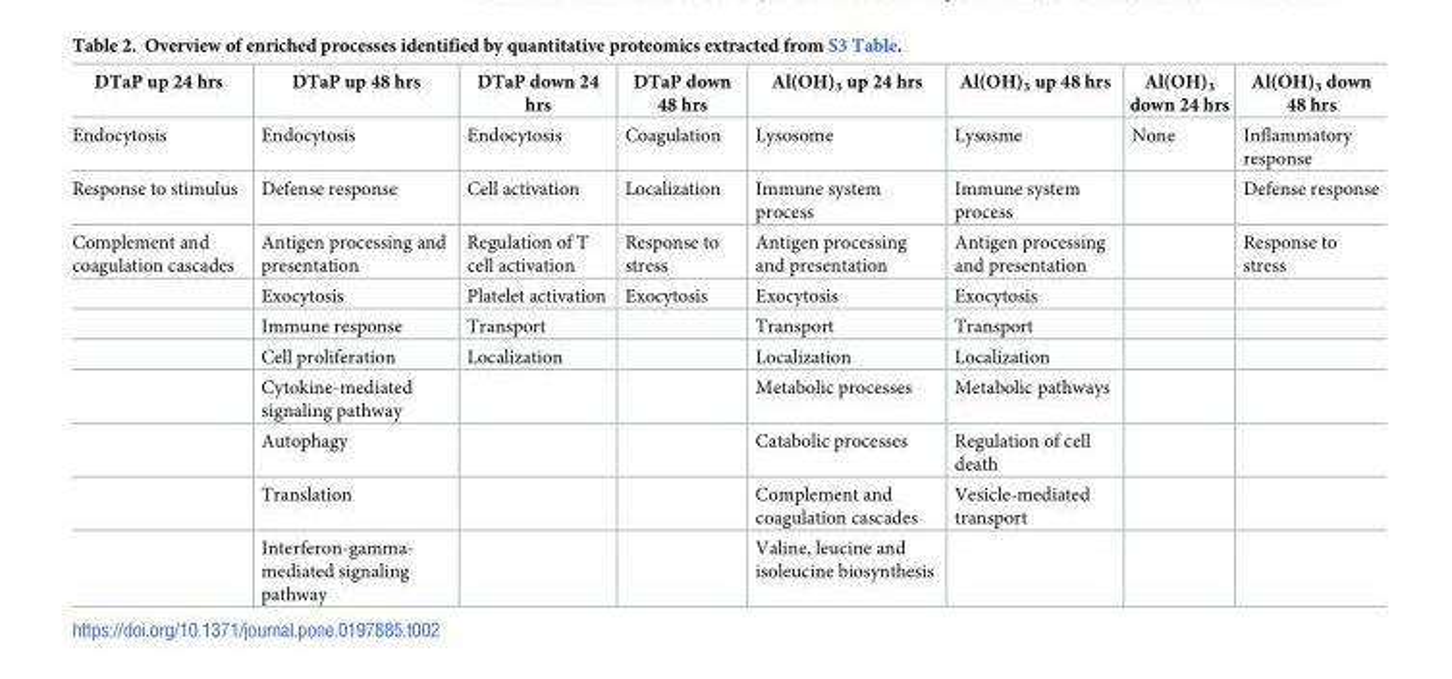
<table><thead><tr><td>DTaP up 24 hrs</td><td>DTaP up 48 hrs</td><td>DTaP down 24 hrs</td><td>DTaP down 48 hrs</td><td>Al(OH)<sub>3</sub> up 24 hrs</td><td>Al(OH)<sub>3</sub> up 48 hrs</td><td>Al(OH)<sub>3</sub> down 24 hrs</td><td>Al(OH)<sub>3</sub> down 48 hrs</td></tr></thead><tbody><tr><td>Endocytosis</td><td>Endocytosis</td><td>Endocytosis</td><td>Coagulation</td><td>Lysosome</td><td>Lysosme</td><td>None</td><td>Inflammatory response</td></tr><tr><td>Response to stimulus</td><td>Defense response</td><td>Cell activation</td><td>Localization</td><td>Immune system process</td><td>Immune system process</td><td></td><td>Defense response</td></tr><tr><td rowspan="8">Complement and coagulation cascades</td><td>Antigen processing and presentation</td><td>Regulation of T cell activation</td><td>Response to stress</td><td>Antigen processing and presentation</td><td>Antigen processing and presentation</td><td></td><td>Response to stress</td></tr><tr><td>Exocytosis</td><td>Platelet activation</td><td>Exocytosis</td><td>Exocytosis</td><td>Exocytosis</td><td></td><td></td></tr><tr><td>Immune response</td><td>Transport</td><td></td><td>Transport</td><td>Transport</td><td></td><td></td></tr><tr><td>Cell proliferation</td><td>Localization</td><td></td><td>Localization</td><td>Localization</td><td></td><td></td></tr><tr><td>Cytokine-mediated signaling pathway</td><td></td><td></td><td>Metabolic processes</td><td>Metabolic pathways</td><td></td><td></td></tr><tr><td>Autophagy</td><td></td><td></td><td>Catabolic processes</td><td>Regulation of cell death</td><td></td><td></td></tr><tr><td>Translation</td><td></td><td></td><td>Complement and coagulation cascades</td><td>Vesicle-mediated transport</td><td></td><td></td></tr><tr><td>Interferon-gamma- mediated signaling pathway</td><td></td><td></td><td>Valine, leucine and isoleucine biosynthesis</td><td></td><td></td><td></td></tr></tbody></table>